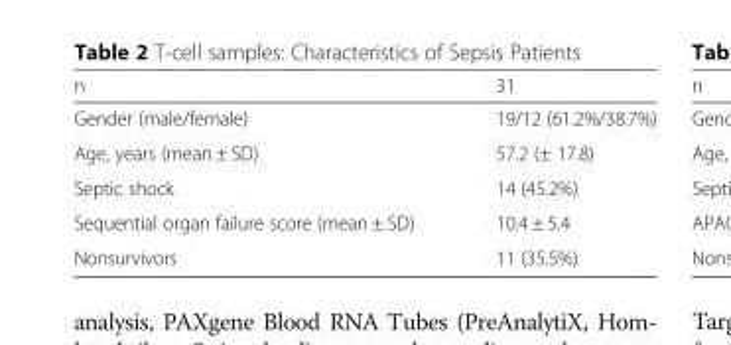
<table><thead><tr><td>n</td><td>31</td></tr></thead><tbody><tr><td>Gender (male/female)</td><td>19/12 (61.2%/38.7%)</td></tr><tr><td>Age, years (mean ± SD)</td><td>57.2 (± 17.8)</td></tr><tr><td>Septic shock</td><td>14 (45.2%)</td></tr><tr><td>Sequential organ failure score (mean ± SD)</td><td>10.4 ± 5.4</td></tr><tr><td>Nonsurvivors</td><td>11 (35.5%)</td></tr></tbody></table>